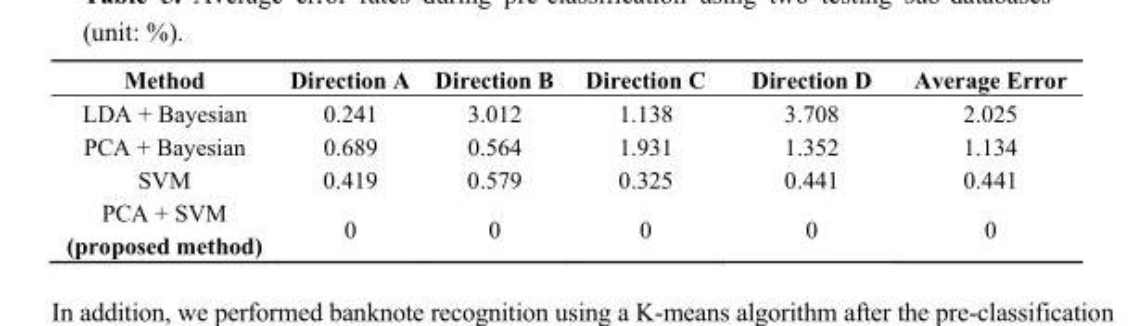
<table><thead><tr><td>Method</td><td>Direction A</td><td>Direction B</td><td>Direction C</td><td>Direction D</td><td>Average Error</td></tr></thead><tbody><tr><td>LDA + Bayesian</td><td>0.241</td><td>3.012</td><td>1.138</td><td>3.708</td><td>2.025</td></tr><tr><td>PCA + Bayesian</td><td>0.689</td><td>0.564</td><td>1.931</td><td>1.352</td><td>1.134</td></tr><tr><td>SVM</td><td>0.419</td><td>0.579</td><td>0.325</td><td>0.441</td><td>0.441</td></tr><tr><td>PCA + SVM (proposed method)</td><td>0</td><td>0</td><td>0</td><td>0</td><td>0</td></tr></tbody></table>